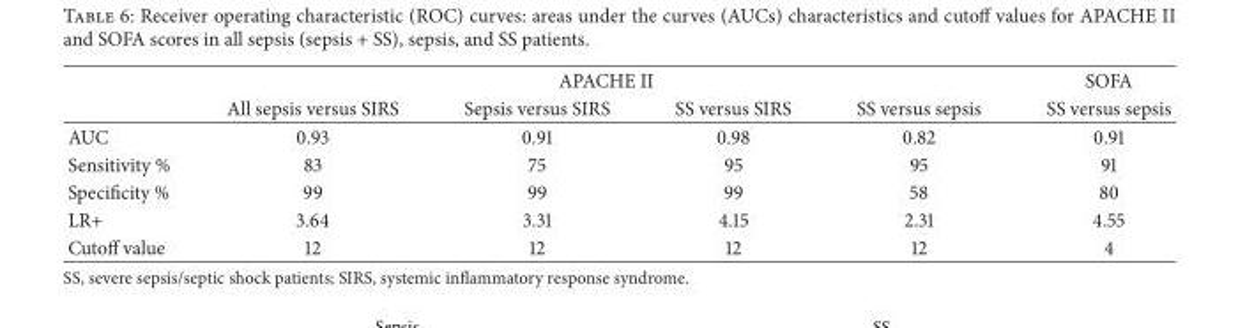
<table><thead><tr><td rowspan="2"></td><td colspan="4">APACHE II</td><td rowspan="2">SOFA SS versus sepsis</td></tr><tr><td>All sepsis versus SIRS</td><td>Sepsis versus SIRS</td><td>SS versus SIRS</td><td>SS versus sepsis</td></tr></thead><tbody><tr><td>AUC</td><td>0.93</td><td>0.91</td><td>0.98</td><td>0.82</td><td>0.91</td></tr><tr><td>Sensitivity %</td><td>83</td><td>75</td><td>95</td><td>95</td><td>91</td></tr><tr><td>Specificity %</td><td>99</td><td>99</td><td>99</td><td>58</td><td>80</td></tr><tr><td>LR+</td><td>3.64</td><td>3.31</td><td>4.15</td><td>2.31</td><td>4.55</td></tr><tr><td>Cutoff value</td><td>12</td><td>12</td><td>12</td><td>12</td><td>4</td></tr></tbody></table>